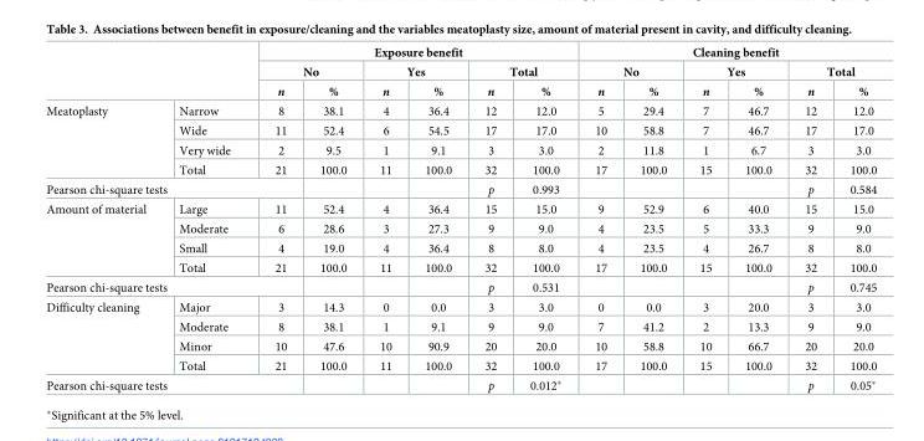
<table><thead><tr><td rowspan="3"></td><td rowspan="3"></td><td colspan="6">Exposure benefit</td><td colspan="6">Cleaning benefit</td></tr><tr><td colspan="2">No</td><td colspan="2">Yes</td><td colspan="2">Total</td><td colspan="2">No</td><td colspan="2">Yes</td><td colspan="2">Total</td></tr><tr><td>n</td><td>%</td><td>n</td><td>%</td><td>n</td><td>%</td><td>n</td><td>%</td><td>n</td><td>%</td><td>n</td><td>%</td></tr></thead><tbody><tr><td rowspan="4">Meatoplasty</td><td>Narrow</td><td>8</td><td>38.1</td><td>4</td><td>36.4</td><td>12</td><td>12.0</td><td>5</td><td>29.4</td><td>7</td><td>46.7</td><td>12</td><td>12.0</td></tr><tr><td>Wide</td><td>11</td><td>52.4</td><td>6</td><td>54.5</td><td>17</td><td>17.0</td><td>10</td><td>58.8</td><td>7</td><td>46.7</td><td>17</td><td>17.0</td></tr><tr><td>Very wide</td><td>2</td><td>9.5</td><td>1</td><td>9.1</td><td>3</td><td>3.0</td><td>2</td><td>11.8</td><td>1</td><td>6.7</td><td>3</td><td>3.0</td></tr><tr><td>Total</td><td>21</td><td>100.0</td><td>11</td><td>100.0</td><td>32</td><td>100.0</td><td>17</td><td>100.0</td><td>15</td><td>100.0</td><td>32</td><td>100.0</td></tr><tr><td colspan="3">Pearson chi-square tests</td><td></td><td></td><td></td><td>p</td><td>0.993</td><td></td><td></td><td></td><td></td><td>p</td><td>0.584</td></tr><tr><td rowspan="4">Amount of material</td><td>Large</td><td>11</td><td>52.4</td><td>4</td><td>36.4</td><td>15</td><td>15.0</td><td>9</td><td>52.9</td><td>6</td><td>40.0</td><td>15</td><td>15.0</td></tr><tr><td>Moderate</td><td>6</td><td>28.6</td><td>3</td><td>27.3</td><td>9</td><td>9.0</td><td>4</td><td>23.5</td><td>5</td><td>33.3</td><td>9</td><td>9.0</td></tr><tr><td>Small</td><td>4</td><td>19.0</td><td>4</td><td>36.4</td><td>8</td><td>8.0</td><td>4</td><td>23.5</td><td>4</td><td>26.7</td><td>8</td><td>8.0</td></tr><tr><td>Total</td><td>21</td><td>100.0</td><td>11</td><td>100.0</td><td>32</td><td>100.0</td><td>17</td><td>100.0</td><td>15</td><td>100.0</td><td>32</td><td>100.0</td></tr><tr><td colspan="3">Pearson chi-square tests</td><td></td><td></td><td></td><td>p</td><td>0.531</td><td></td><td></td><td></td><td></td><td>p</td><td>0.745</td></tr><tr><td rowspan="4">Difficulty cleaning</td><td>Major</td><td>3</td><td>14.3</td><td>0</td><td>0.0</td><td>3</td><td>3.0</td><td>0</td><td>0.0</td><td>3</td><td>20.0</td><td>3</td><td>3.0</td></tr><tr><td>Moderate</td><td>8</td><td>38.1</td><td>1</td><td>9.1</td><td>9</td><td>9.0</td><td>7</td><td>41.2</td><td>2</td><td>13.3</td><td>9</td><td>9.0</td></tr><tr><td>Minor</td><td>10</td><td>47.6</td><td>10</td><td>90.9</td><td>20</td><td>20.0</td><td>10</td><td>58.8</td><td>10</td><td>66.7</td><td>20</td><td>20.0</td></tr><tr><td>Total</td><td>21</td><td>100.0</td><td>11</td><td>100.0</td><td>32</td><td>100.0</td><td>17</td><td>100.0</td><td>15</td><td>100.0</td><td>32</td><td>100.0</td></tr><tr><td colspan="3">Pearson chi-square tests</td><td></td><td></td><td></td><td>p</td><td>0.012*</td><td></td><td></td><td></td><td></td><td>p</td><td>0.05*</td></tr></tbody></table>